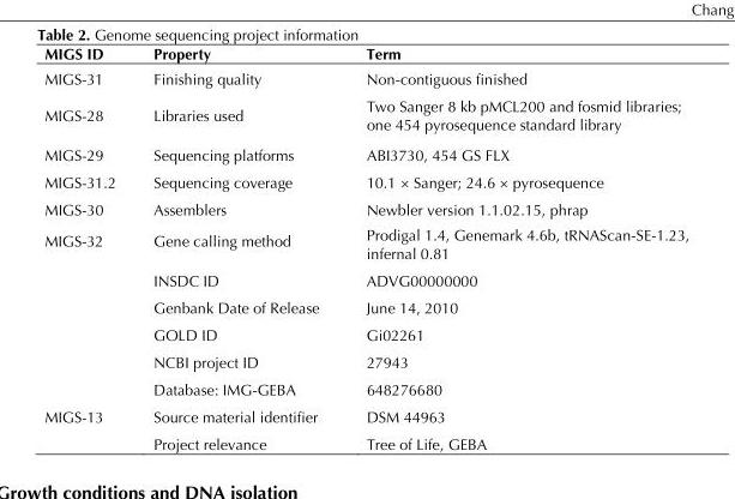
<table><thead><tr><td>MIGS ID</td><td>Property</td><td>Term</td></tr></thead><tbody><tr><td>MIGS-31</td><td>Finishing quality</td><td>Non-contiguous finished</td></tr><tr><td>MIGS-28</td><td>Libraries used</td><td>Two Sanger 8 kb pMCL200 and fosmid libraries; one 454 pyrosequence standard library</td></tr><tr><td>MIGS-29</td><td>Sequencing platforms</td><td>ABI3730, 454 GS FLX</td></tr><tr><td>MIGS-31.2</td><td>Sequencing coverage</td><td>10.1 × Sanger; 24.6 × pyrosequence</td></tr><tr><td>MIGS-30</td><td>Assemblers</td><td>Newbler version 1.1.02.15, phrap</td></tr><tr><td rowspan="6">MIGS-32</td><td>Gene calling method</td><td>Prodigal 1.4, Genemark 4.6b, tRNAScan-SE-1.23, infernal 0.81</td></tr><tr><td>INSDC ID</td><td>ADVG00000000</td></tr><tr><td>Genbank Date of Release</td><td>June 14, 2010</td></tr><tr><td>GOLD ID</td><td>Gi02261</td></tr><tr><td>NCBI project ID</td><td>27943</td></tr><tr><td>Database: IMG-GEBA</td><td>648276680</td></tr><tr><td rowspan="2">MIGS-13</td><td>Source material identifier</td><td>DSM 44963</td></tr><tr><td>Project relevance</td><td>Tree of Life, GEBA</td></tr></tbody></table>